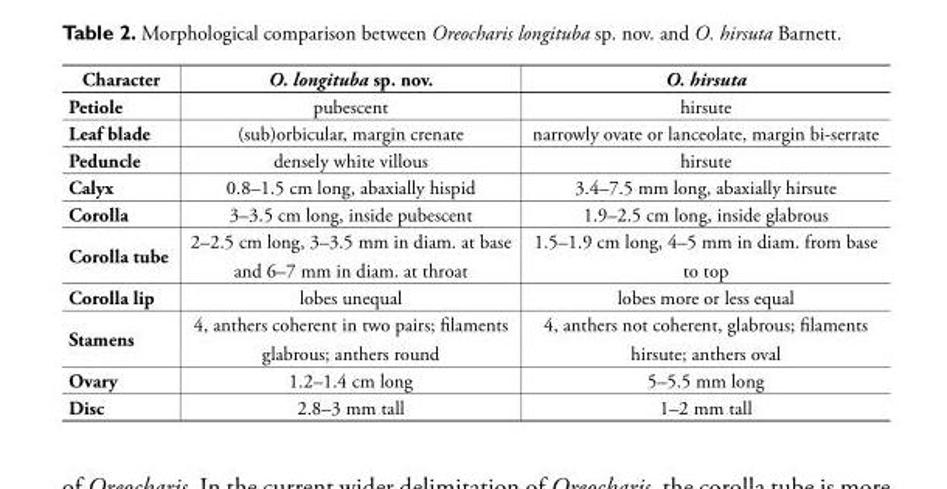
<table><thead><tr><td>Character</td><td>O. longituba sp. nov.</td><td>O. hirsuta</td></tr></thead><tbody><tr><td>Petiole</td><td>pubescent</td><td>hirsute</td></tr><tr><td>Leaf blade</td><td>(sub)orbicular, margin crenate</td><td>narrowly ovate or lanceolate, margin bi-serrate</td></tr><tr><td>Peduncle</td><td>densely white villous</td><td>hirsute</td></tr><tr><td>Calyx</td><td>0.8–1.5 cm long, abaxially hispid</td><td>3.4–7.5 mm long, abaxially hirsute</td></tr><tr><td>Corolla</td><td>3–3.5 cm long, inside pubescent</td><td>1.9–2.5 cm long, inside glabrous</td></tr><tr><td>Corolla tube</td><td>2–2.5 cm long, 3–3.5 mm in diam. at base and 6–7 mm in diam. at throat</td><td>1.5–1.9 cm long, 4–5 mm in diam. from base to top</td></tr><tr><td>Corolla lip</td><td>lobes unequal</td><td>lobes more or less equal</td></tr><tr><td>Stamens</td><td>4, anthers coherent in two pairs; filaments glabrous; anthers round</td><td>4, anthers not coherent, glabrous; filaments hirsute; anthers oval</td></tr><tr><td>Ovary</td><td>1.2–1.4 cm long</td><td>5–5.5 mm long</td></tr><tr><td>Disc</td><td>2.8–3 mm tall</td><td>1–2 mm tall</td></tr></tbody></table>